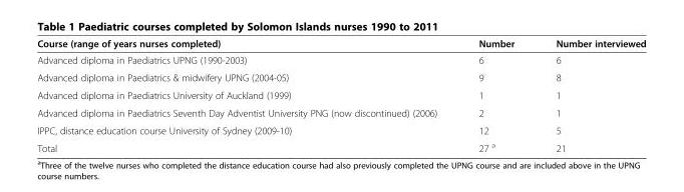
<table><thead><tr><td>Course (range of years nurses completed)</td><td>Number</td><td>Number interviewed</td></tr></thead><tbody><tr><td>Advanced diploma in Paediatrics UPNG (1990-2003)</td><td>6</td><td>6</td></tr><tr><td>Advanced diploma in Paediatrics &amp; midwifery UPNG (2004-05)</td><td>9</td><td>8</td></tr><tr><td>Advanced diploma in Paediatrics University of Auckland (1999)</td><td>1</td><td>1</td></tr><tr><td>Advanced diploma in Paediatrics Seventh Day Adventist University PNG (now discontinued) (2006)</td><td>2</td><td>1</td></tr><tr><td>IPPC, distance education course University of Sydney (2009-10)</td><td>12</td><td>5</td></tr><tr><td>Total</td><td>27 <sup>a</sup></td><td>21</td></tr></tbody></table>